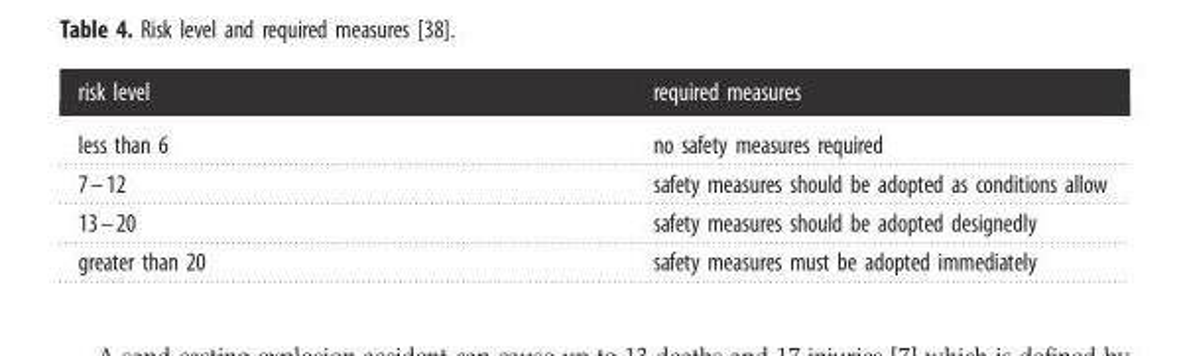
<table><thead><tr><td>risk level</td><td>required measures</td></tr></thead><tbody><tr><td>less than 6</td><td>no safety measures required</td></tr><tr><td>7–12</td><td>safety measures should be adopted as conditions allow</td></tr><tr><td>13–20</td><td>safety measures should be adopted designedly</td></tr><tr><td>greater than 20</td><td>safety measures must be adopted immediately</td></tr></tbody></table>